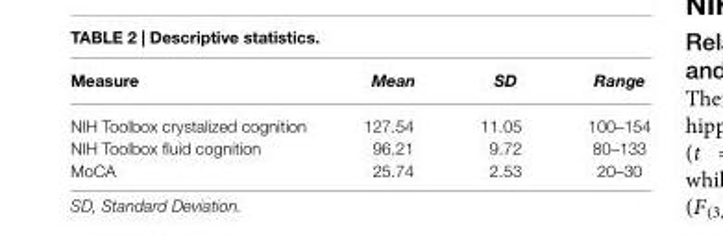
<table><thead><tr><td>Measure</td><td>Mean</td><td>SD</td><td>Range</td></tr></thead><tbody><tr><td>NIH Toolbox crystalized cognition</td><td>127.54</td><td>11.05</td><td>100–154</td></tr><tr><td>NIH Toolbox fluid cognition</td><td>96.21</td><td>9.72</td><td>80–133</td></tr><tr><td>MoCA</td><td>25.74</td><td>2.53</td><td>20–30</td></tr></tbody></table>